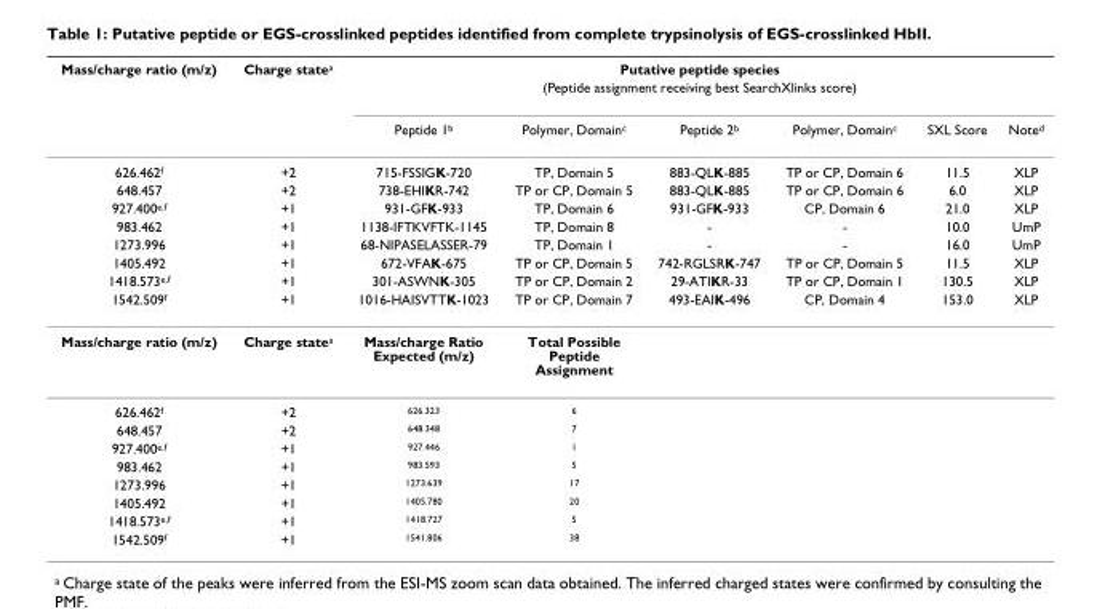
<table><thead><tr><td rowspan="3">Mass/charge ratio (m/z)</td><td rowspan="3">Charge statea</td><td rowspan="2" colspan="6">Putative peptide species (Peptide assignment receiving best SearchXlinks score)</td></tr><tr></tr><tr><td>Peptide 1b</td><td>Polymer, Domainc</td><td>Peptide 2b</td><td>Polymer, Domainc</td><td>SXL Score</td><td>Noted</td></tr></thead><tbody><tr><td>626.462f</td><td>+2</td><td>715-FSSIGK-720</td><td>TP, Domain 5</td><td>883-QLK-885</td><td>TP or CP, Domain 6</td><td>11.5</td><td>XLP</td></tr><tr><td>648.457</td><td>+2</td><td>738-EHIKR-742</td><td>TP or CP, Domain 5</td><td>883-QLK-885</td><td>TP or CP, Domain 6</td><td>6.0</td><td>XLP</td></tr><tr><td>927.400e,f</td><td>+1</td><td>931-GFK-933</td><td>TP, Domain 6</td><td>931-GFK-933</td><td>CP, Domain 6</td><td>21.0</td><td>XLP</td></tr><tr><td>983.462</td><td>+1</td><td>1138-IFTKVFTK-1145</td><td>TP, Domain 8</td><td>-</td><td>-</td><td>10.0</td><td>UmP</td></tr><tr><td>1273.996</td><td>+1</td><td>68-NIPASELASSER-79</td><td>TP, Domain 1</td><td>-</td><td>-</td><td>16.0</td><td>UmP</td></tr><tr><td>1405.492</td><td>+1</td><td>672-VFAK-675</td><td>TP or CP, Domain 5</td><td>742-RGLSRK-747</td><td>TP or CP, Domain 5</td><td>11.5</td><td>XLP</td></tr><tr><td>1418.573e,f</td><td>+1</td><td>301-ASWNK-305</td><td>TP or CP, Domain 2</td><td>29-ATIKR-33</td><td>TP or CP, Domain 1</td><td>130.5</td><td>XLP</td></tr><tr><td>1542.509f</td><td>+1</td><td>1016-HAISVTTK-1023</td><td>TP or CP, Domain 7</td><td>493-EAIK-496</td><td>CP, Domain 4</td><td>153.0</td><td>XLP</td></tr><tr><td>Mass/charge ratio (m/z)</td><td>Charge statea</td><td>Mass/charge Ratio Expected (m/z)</td><td>Total Possible Peptide Assignment</td><td></td><td></td><td></td><td></td></tr><tr><td>626.462f</td><td>+2</td><td>626.323</td><td>6</td><td></td><td></td><td></td><td></td></tr><tr><td>648.457</td><td>+2</td><td>648.348</td><td>7</td><td></td><td></td><td></td><td></td></tr><tr><td>927.400e,f</td><td>+1</td><td>927.446</td><td>1</td><td></td><td></td><td></td><td></td></tr><tr><td>983.462</td><td>+1</td><td>983.593</td><td>5</td><td></td><td></td><td></td><td></td></tr><tr><td>1273.996</td><td>+1</td><td>1273.639</td><td>17</td><td></td><td></td><td></td><td></td></tr><tr><td>1405.492</td><td>+1</td><td>1405.780</td><td>20</td><td></td><td></td><td></td><td></td></tr><tr><td>1418.573e,f</td><td>+1</td><td>1418.727</td><td>5</td><td></td><td></td><td></td><td></td></tr><tr><td>1542.509f</td><td>+1</td><td>1541.806</td><td>38</td><td></td><td></td><td></td><td></td></tr></tbody></table>